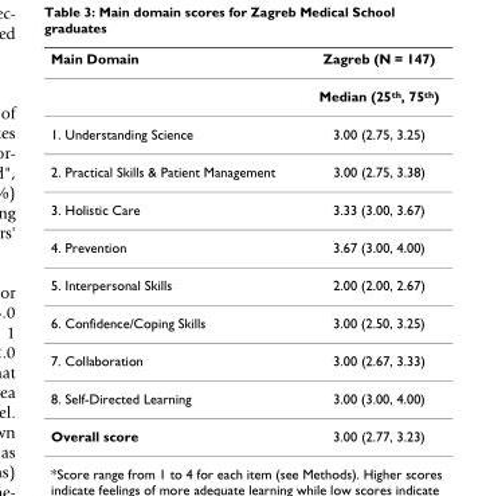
<table><thead><tr><td>Main Domain</td><td>Zagreb (N = 147)</td></tr></thead><tbody><tr><td></td><td>Median (25<sup>th</sup>, 75<sup>th</sup>)</td></tr><tr><td>1. Understanding Science</td><td>3.00 (2.75, 3.25)</td></tr><tr><td>2. Practical Skills &amp; Patient Management</td><td>3.00 (2.75, 3.38)</td></tr><tr><td>3. Holistic Care</td><td>3.33 (3.00, 3.67)</td></tr><tr><td>4. Prevention</td><td>3.67 (3.00, 4.00)</td></tr><tr><td>5. Interpersonal Skills</td><td>2.00 (2.00, 2.67)</td></tr><tr><td>6. Confidence/Coping Skills</td><td>3.00 (2.50, 3.25)</td></tr><tr><td>7. Collaboration</td><td>3.00 (2.67, 3.33)</td></tr><tr><td>8. Self-Directed Learning</td><td>3.00 (3.00, 4.00)</td></tr><tr><td>Overall score</td><td>3.00 (2.77, 3.23)</td></tr></tbody></table>